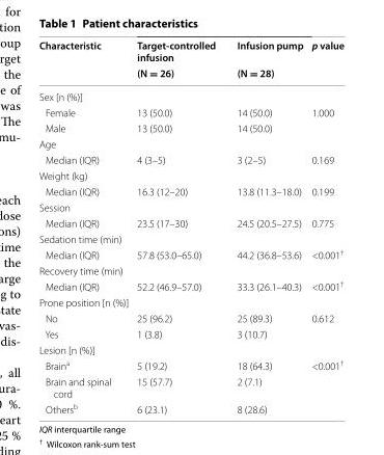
<table><thead><tr><td rowspan="2">Characteristic</td><td rowspan="2">Target-controlled infusion (N = 26)</td><td rowspan="2">Infusion pump (N = 28)</td><td rowspan="2">p value</td></tr><tr></tr></thead><tbody><tr><td colspan="4">Sex [n (%)]</td></tr><tr><td>Female</td><td>13 (50.0)</td><td>14 (50.0)</td><td>1.000</td></tr><tr><td>Male</td><td>13 (50.0)</td><td>14 (50.0)</td><td></td></tr><tr><td colspan="4">Age</td></tr><tr><td>Median (IQR)</td><td>4 (3–5)</td><td>3 (2–5)</td><td>0.169</td></tr><tr><td colspan="4">Weight (kg)</td></tr><tr><td>Median (IQR)</td><td>16.3 (12–20)</td><td>13.8 (11.3–18.0)</td><td>0.199</td></tr><tr><td colspan="4">Session</td></tr><tr><td>Median (IQR)</td><td>23.5 (17–30)</td><td>24.5 (20.5–27.5)</td><td>0.775</td></tr><tr><td colspan="4">Sedation time (min)</td></tr><tr><td>Median (IQR)</td><td>57.8 (53.0–65.0)</td><td>44.2 (36.8–53.6)</td><td>&lt;0.001<sup>†</sup></td></tr><tr><td colspan="4">Recovery time (min)</td></tr><tr><td>Median (IQR)</td><td>52.2 (46.9–57.0)</td><td>33.3 (26.1–40.3)</td><td>&lt;0.001<sup>†</sup></td></tr><tr><td colspan="4">Prone position [n (%)]</td></tr><tr><td>No</td><td>25 (96.2)</td><td>25 (89.3)</td><td>0.612</td></tr><tr><td>Yes</td><td>1 (3.8)</td><td>3 (10.7)</td><td></td></tr><tr><td colspan="4">Lesion [n (%)]</td></tr><tr><td>Brain<sup>a</sup></td><td>5 (19.2)</td><td>18 (64.3)</td><td>&lt;0.001<sup>†</sup></td></tr><tr><td>Brain and spinal cord</td><td>15 (57.7)</td><td>2 (7.1)</td><td></td></tr><tr><td>Others<sup>b</sup></td><td>6 (23.1)</td><td>8 (28.6)</td><td></td></tr></tbody></table>